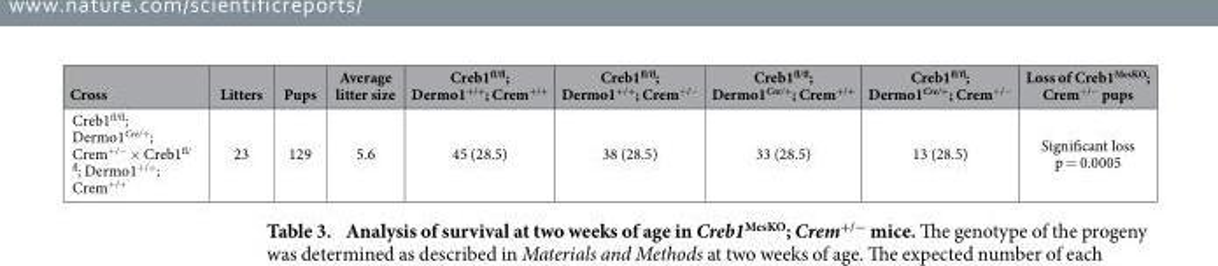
<table><thead><tr><td>Cross</td><td>Litters</td><td>Pups</td><td>Average litter size</td><td>Creb1<sup>fl/fl</sup>; Dermo1<sup>+/+</sup>; Crem<sup>+/+</sup></td><td>Creb1<sup>fl/fl</sup>; Dermo1<sup>+/+</sup>; Crem<sup>+/−</sup></td><td>Creb1<sup>fl/fl</sup>; Dermo1<sup>Cre/+</sup>; Crem<sup>+/+</sup></td><td>Creb1<sup>fl/fl</sup>; Dermo1<sup>Cre/+</sup>; Crem<sup>+/−</sup></td><td>Loss of Creb1<sup>MesKO</sup>; Crem<sup>+/−</sup> pups</td></tr></thead><tbody><tr><td>Creb1<sup>fl/fl</sup>; Dermo1<sup>Cre/+</sup>; Crem<sup>+/−</sup> × Creb1<sup>fl/ fl</sup>; Dermo1<sup>+/+</sup>; Crem<sup>+/+</sup></td><td>23</td><td>129</td><td>5.6</td><td>45 (28.5)</td><td>38 (28.5)</td><td>33 (28.5)</td><td>13 (28.5)</td><td>Significant loss p = 0.0005</td></tr></tbody></table>